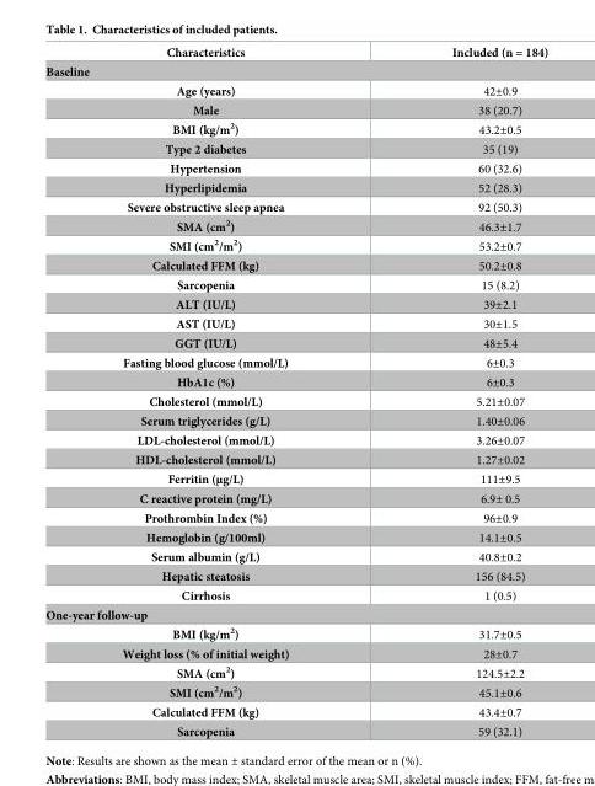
<table><thead><tr><td>Characteristics</td><td>Included (n = 184)</td></tr></thead><tbody><tr><td colspan="2">Baseline</td></tr><tr><td>Age (years)</td><td>42±0.9</td></tr><tr><td>Male</td><td>38 (20.7)</td></tr><tr><td>BMI (kg/m<sup>2</sup>)</td><td>43.2±0.5</td></tr><tr><td>Type 2 diabetes</td><td>35 (19)</td></tr><tr><td>Hypertension</td><td>60 (32.6)</td></tr><tr><td>Hyperlipidemia</td><td>52 (28.3)</td></tr><tr><td>Severe obstructive sleep apnea</td><td>92 (50.3)</td></tr><tr><td>SMA (cm<sup>2</sup>)</td><td>46.3±1.7</td></tr><tr><td>SMI (cm<sup>2</sup>/m<sup>2</sup>)</td><td>53.2±0.7</td></tr><tr><td>Calculated FFM (kg)</td><td>50.2±0.8</td></tr><tr><td>Sarcopenia</td><td>15 (8.2)</td></tr><tr><td>ALT (IU/L)</td><td>39±2.1</td></tr><tr><td>AST (IU/L)</td><td>30±1.5</td></tr><tr><td>GGT (IU/L)</td><td>48±5.4</td></tr><tr><td>Fasting blood glucose (mmol/L)</td><td>6±0.3</td></tr><tr><td>HbA1c (%)</td><td>6±0.3</td></tr><tr><td>Cholesterol (mmol/L)</td><td>5.21±0.07</td></tr><tr><td>Serum triglycerides (g/L)</td><td>1.40±0.06</td></tr><tr><td>LDL-cholesterol (mmol/L)</td><td>3.26±0.07</td></tr><tr><td>HDL-cholesterol (mmol/L)</td><td>1.27±0.02</td></tr><tr><td>Ferritin (μg/L)</td><td>111±9.5</td></tr><tr><td>C reactive protein (mg/L)</td><td>6.9± 0.5</td></tr><tr><td>Prothrombin Index (%)</td><td>96±0.9</td></tr><tr><td>Hemoglobin (g/100ml)</td><td>14.1±0.5</td></tr><tr><td>Serum albumin (g/L)</td><td>40.8±0.2</td></tr><tr><td>Hepatic steatosis</td><td>156 (84.5)</td></tr><tr><td>Cirrhosis</td><td>1 (0.5)</td></tr><tr><td colspan="2">One-year follow-up</td></tr><tr><td>BMI (kg/m<sup>2</sup>)</td><td>31.7±0.5</td></tr><tr><td>Weight loss (% of initial weight)</td><td>28±0.7</td></tr><tr><td>SMA (cm<sup>2</sup>)</td><td>124.5±2.2</td></tr><tr><td>SMI (cm<sup>2</sup>/m<sup>2</sup>)</td><td>45.1±0.6</td></tr><tr><td>Calculated FFM (kg)</td><td>43.4±0.7</td></tr><tr><td>Sarcopenia</td><td>59 (32.1)</td></tr></tbody></table>